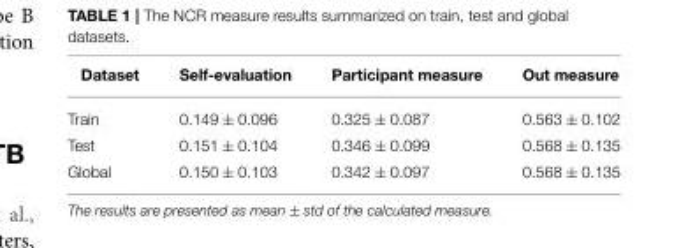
<table><thead><tr><td>Dataset</td><td>Self-evaluation</td><td>Participant measure</td><td>Out measure</td></tr></thead><tbody><tr><td>Train</td><td>0.149 ± 0.096</td><td>0.325 ± 0.087</td><td>0.563 ± 0.102</td></tr><tr><td>Test</td><td>0.151 ± 0.104</td><td>0.346 ± 0.099</td><td>0.568 ± 0.135</td></tr><tr><td>Global</td><td>0.150 ± 0.103</td><td>0.342 ± 0.097</td><td>0.568 ± 0.135</td></tr></tbody></table>